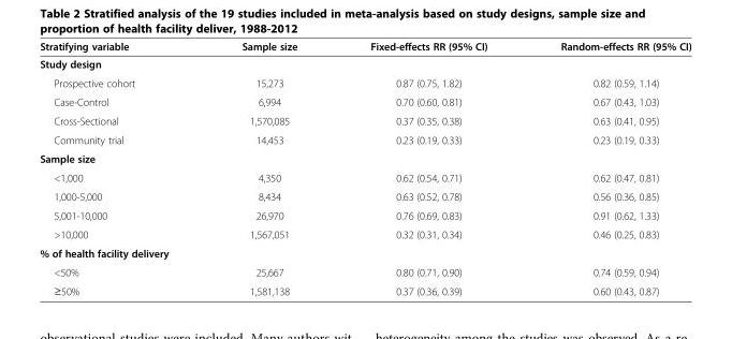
<table><thead><tr><td>Stratifying variable</td><td>Sample size</td><td>Fixed-effects RR (95% CI)</td><td>Random-effects RR (95% CI)</td></tr></thead><tbody><tr><td colspan="4">Study design</td></tr><tr><td>Prospective cohort</td><td>15,273</td><td>0.87 (0.75, 1.82)</td><td>0.82 (0.59, 1.14)</td></tr><tr><td>Case-Control</td><td>6,994</td><td>0.70 (0.60, 0.81)</td><td>0.67 (0.43, 1.03)</td></tr><tr><td>Cross-Sectional</td><td>1,570,085</td><td>0.37 (0.35, 0.38)</td><td>0.63 (0.41, 0.95)</td></tr><tr><td>Community trial</td><td>14,453</td><td>0.23 (0.19, 0.33)</td><td>0.23 (0.19, 0.33)</td></tr><tr><td colspan="4">Sample size</td></tr><tr><td>&lt;1,000</td><td>4,350</td><td>0.62 (0.54, 0.71)</td><td>0.62 (0.47, 0.81)</td></tr><tr><td>1,000-5,000</td><td>8,434</td><td>0.63 (0.52, 0.78)</td><td>0.56 (0.36, 0.85)</td></tr><tr><td>5,001-10,000</td><td>26,970</td><td>0.76 (0.69, 0.83)</td><td>0.91 (0.62, 1.33)</td></tr><tr><td>&gt;10,000</td><td>1,567,051</td><td>0.32 (0.31, 0.34)</td><td>0.46 (0.25, 0.83)</td></tr><tr><td colspan="4">% of health facility delivery</td></tr><tr><td>&lt;50%</td><td>25,667</td><td>0.80 (0.71, 0.90)</td><td>0.74 (0.59, 0.94)</td></tr><tr><td>≥50%</td><td>1,581,138</td><td>0.37 (0.36, 0.39)</td><td>0.60 (0.43, 0.87)</td></tr></tbody></table>